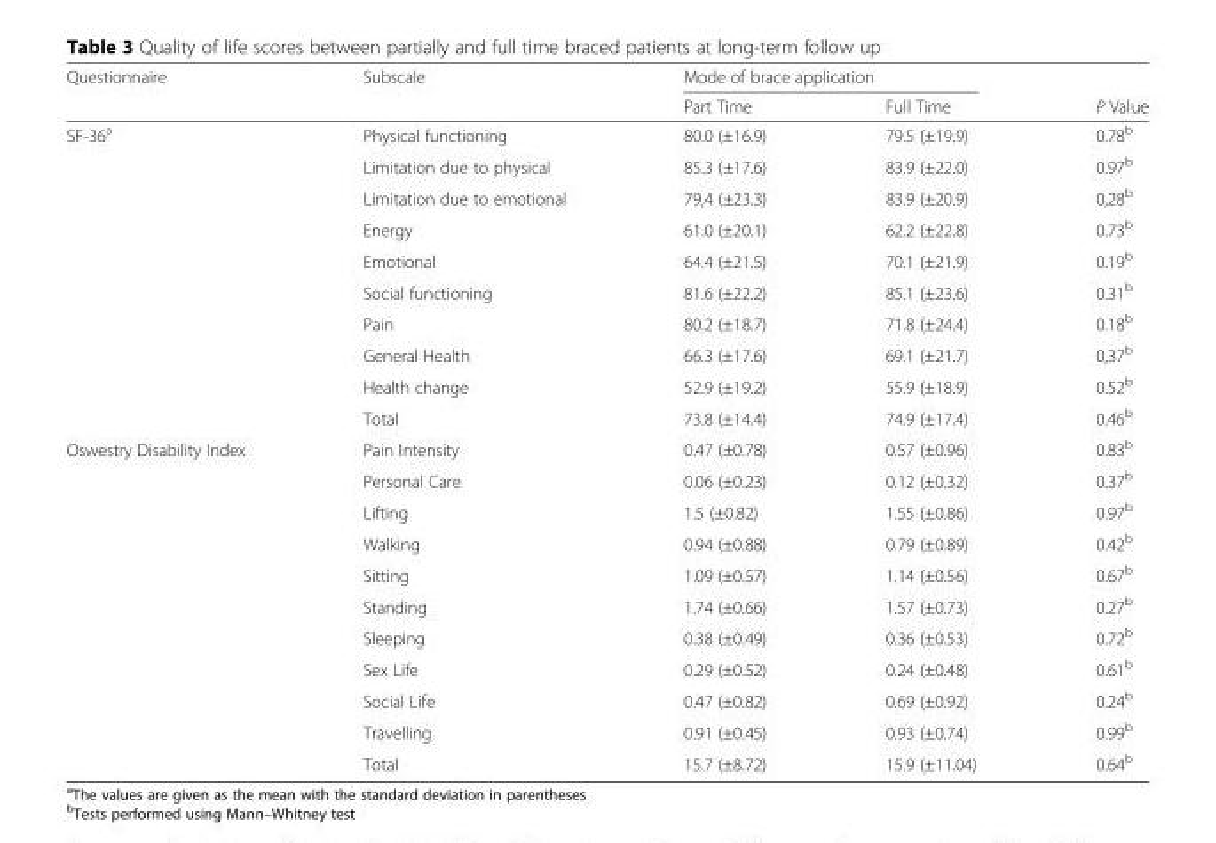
<table><thead><tr><td rowspan="2">Questionnaire</td><td rowspan="2">Subscale</td><td colspan="2">Mode of brace application</td><td rowspan="2">P Value</td></tr><tr><td>Part Time</td><td>Full Time</td></tr></thead><tbody><tr><td rowspan="10">SF-36<sup>a</sup></td><td>Physical functioning</td><td>80.0 (±16.9)</td><td>79.5 (±19.9)</td><td>0.78<sup>b</sup></td></tr><tr><td>Limitation due to physical</td><td>85.3 (±17.6)</td><td>83.9 (±22.0)</td><td>0.97<sup>b</sup></td></tr><tr><td>Limitation due to emotional</td><td>79,4 (±23.3)</td><td>83.9 (±20.9)</td><td>0,28<sup>b</sup></td></tr><tr><td>Energy</td><td>61.0 (±20.1)</td><td>62.2 (±22.8)</td><td>0.73<sup>b</sup></td></tr><tr><td>Emotional</td><td>64.4 (±21.5)</td><td>70.1 (±21.9)</td><td>0.19<sup>b</sup></td></tr><tr><td>Social functioning</td><td>81.6 (±22.2)</td><td>85.1 (±23.6)</td><td>0.31<sup>b</sup></td></tr><tr><td>Pain</td><td>80.2 (±18.7)</td><td>71.8 (±24.4)</td><td>0.18<sup>b</sup></td></tr><tr><td>General Health</td><td>66.3 (±17.6)</td><td>69.1 (±21.7)</td><td>0,37<sup>b</sup></td></tr><tr><td>Health change</td><td>52.9 (±19.2)</td><td>55.9 (±18.9)</td><td>0.52<sup>b</sup></td></tr><tr><td>Total</td><td>73.8 (±14.4)</td><td>74.9 (±17.4)</td><td>0.46<sup>b</sup></td></tr><tr><td rowspan="11">Oswestry Disability Index</td><td>Pain Intensity</td><td>0.47 (±0.78)</td><td>0.57 (±0.96)</td><td>0.83<sup>b</sup></td></tr><tr><td>Personal Care</td><td>0.06 (±0.23)</td><td>0.12 (±0.32)</td><td>0.37<sup>b</sup></td></tr><tr><td>Lifting</td><td>1.5 (±0.82)</td><td>1.55 (±0.86)</td><td>0.97<sup>b</sup></td></tr><tr><td>Walking</td><td>0.94 (±0.88)</td><td>0.79 (±0.89)</td><td>0.42<sup>b</sup></td></tr><tr><td>Sitting</td><td>1.09 (±0.57)</td><td>1.14 (±0.56)</td><td>0.67<sup>b</sup></td></tr><tr><td>Standing</td><td>1.74 (±0.66)</td><td>1.57 (±0.73)</td><td>0.27<sup>b</sup></td></tr><tr><td>Sleeping</td><td>0.38 (±0.49)</td><td>0.36 (±0.53)</td><td>0.72<sup>b</sup></td></tr><tr><td>Sex Life</td><td>0.29 (±0.52)</td><td>0.24 (±0.48)</td><td>0.61<sup>b</sup></td></tr><tr><td>Social Life</td><td>0.47 (±0.82)</td><td>0.69 (±0.92)</td><td>0.24<sup>b</sup></td></tr><tr><td>Travelling</td><td>0.91 (±0.45)</td><td>0.93 (±0.74)</td><td>0.99<sup>b</sup></td></tr><tr><td>Total</td><td>15.7 (±8.72)</td><td>15.9 (±11.04)</td><td>0.64<sup>b</sup></td></tr></tbody></table>